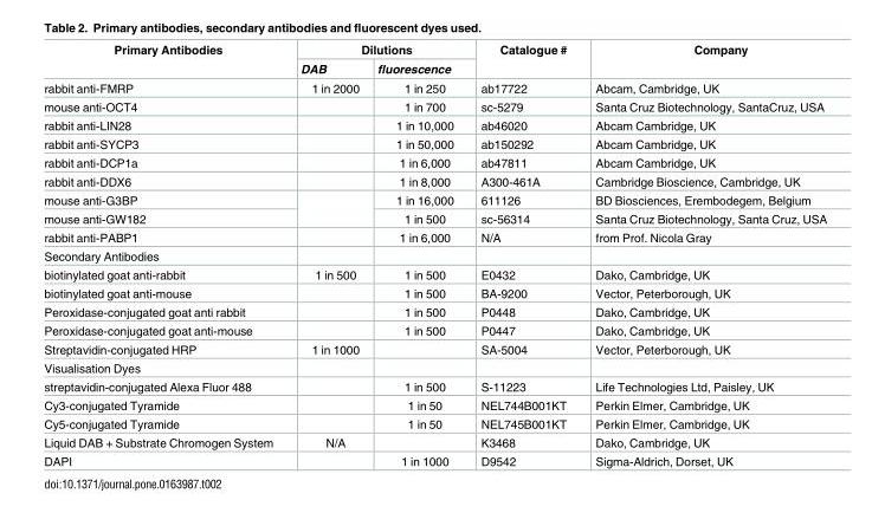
<table><thead><tr><td rowspan="2">Primary Antibodies</td><td colspan="2">Dilutions</td><td rowspan="2">Catalogue #</td><td rowspan="2">Company</td></tr><tr><td>DAB</td><td>fluorescence</td></tr></thead><tbody><tr><td>rabbit anti-FMRP</td><td>1 in 2000</td><td>1 in 250</td><td>ab17722</td><td>Abcam, Cambridge, UK</td></tr><tr><td>mouse anti-OCT4</td><td></td><td>1 in 700</td><td>sc-5279</td><td>Santa Cruz Biotechnology, SantaCruz, USA</td></tr><tr><td>rabbit anti-LIN28</td><td></td><td>1 in 10,000</td><td>ab46020</td><td>Abcam Cambridge, UK</td></tr><tr><td>rabbit anti-SYCP3</td><td></td><td>1 in 50,000</td><td>ab150292</td><td>Abcam Cambridge, UK</td></tr><tr><td>rabbit anti-DCP1a</td><td></td><td>1 in 6,000</td><td>ab47811</td><td>Abcam Cambridge, UK</td></tr><tr><td>rabbit anti-DDX6</td><td></td><td>1 in 8,000</td><td>A300-461A</td><td>Cambridge Bioscience, Cambridge, UK</td></tr><tr><td>mouse anti-G3BP</td><td rowspan="2"></td><td>1 in 16,000</td><td>611126</td><td>BD Biosciences, Erembodegem, Belgium</td></tr><tr><td>mouse anti-GW182</td><td>1 in 500</td><td>sc-56314</td><td>Santa Cruz Biotechnology, Santa Cruz, USA</td></tr><tr><td>rabbit anti-PABP1</td><td></td><td>1 in 6,000</td><td>N/A</td><td>from Prof. Nicola Gray</td></tr><tr><td colspan="5">Secondary Antibodies</td></tr><tr><td>biotinylated goat anti-rabbit</td><td>1 in 500</td><td>1 in 500</td><td>E0432</td><td>Dako, Cambridge, UK</td></tr><tr><td>biotinylated goat anti-mouse</td><td></td><td>1 in 500</td><td>BA-9200</td><td>Vector, Peterborough, UK</td></tr><tr><td>Peroxidase-conjugated goat anti rabbit</td><td></td><td>1 in 500</td><td>P0448</td><td>Dako, Cambridge, UK</td></tr><tr><td>Peroxidase-conjugated goat anti-mouse</td><td></td><td>1 in 500</td><td>P0447</td><td>Dako, Cambridge, UK</td></tr><tr><td>Streptavidin-conjugated HRP</td><td>1 in 1000</td><td></td><td>SA-5004</td><td>Vector, Peterborough, UK</td></tr><tr><td colspan="5">Visualisation Dyes</td></tr><tr><td>streptavidin-conjugated Alexa Fluor 488</td><td></td><td>1 in 500</td><td>S-11223</td><td>Life Technologies Ltd, Paisley, UK</td></tr><tr><td>Cy3-conjugated Tyramide</td><td></td><td>1 in 50</td><td>NEL744B001KT</td><td>Perkin Elmer, Cambridge, UK</td></tr><tr><td>Cy5-conjugated Tyramide</td><td></td><td>1 in 50</td><td>NEL745B001KT</td><td>Perkin Elmer, Cambridge, UK</td></tr><tr><td>Liquid DAB + Substrate Chromogen System</td><td>N/A</td><td></td><td>K3468</td><td>Dako, Cambridge, UK</td></tr><tr><td>DAPI</td><td></td><td>1 in 1000</td><td>D9542</td><td>Sigma-Aldrich, Dorset, UK</td></tr></tbody></table>